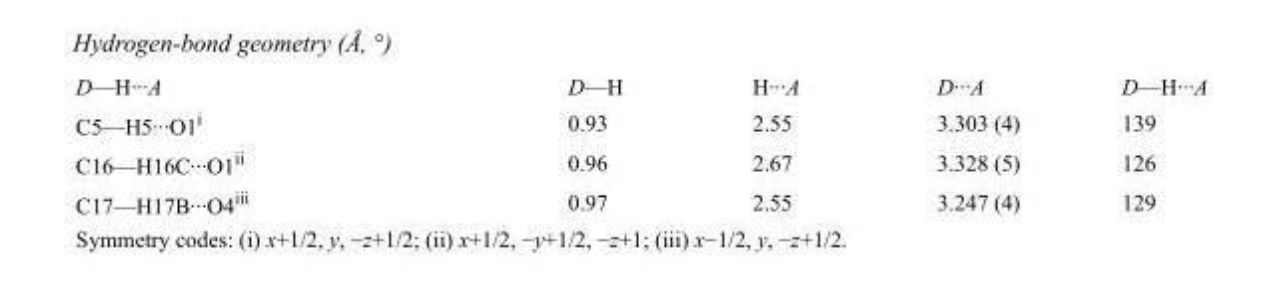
<table><tbody><tr><td>D—H···A</td><td>D—H</td><td>H···A</td><td>D···A</td><td>D—H···A</td></tr><tr><td>C5—H5···O1<sup>i</sup></td><td>0.93</td><td>2.55</td><td>3.303 (4)</td><td>139</td></tr><tr><td>C16—H16C···O1<sup>ii</sup></td><td>0.96</td><td>2.67</td><td>3.328 (5)</td><td>126</td></tr><tr><td>C17—H17B···O4<sup>iii</sup></td><td>0.97</td><td>2.55</td><td>3.247 (4)</td><td>129</td></tr></tbody></table>